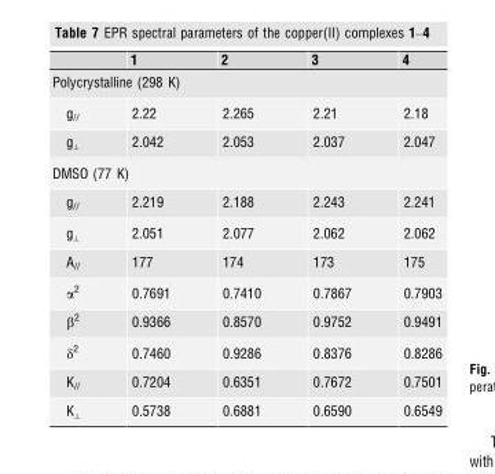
<table><thead><tr><td></td><td>1</td><td>2</td><td>3</td><td>4</td></tr></thead><tbody><tr><td colspan="5">Polycrystalline (298 K)</td></tr><tr><td>g<sub>//</sub></td><td>2.22</td><td>2.265</td><td>2.21</td><td>2.18</td></tr><tr><td>g<sub>⊥</sub></td><td>2.042</td><td>2.053</td><td>2.037</td><td>2.047</td></tr><tr><td colspan="5">DMSO (77 K)</td></tr><tr><td>g<sub>//</sub></td><td>2.219</td><td>2.188</td><td>2.243</td><td>2.241</td></tr><tr><td>g<sub>⊥</sub></td><td>2.051</td><td>2.077</td><td>2.062</td><td>2.062</td></tr><tr><td>A<sub>//</sub></td><td>177</td><td>174</td><td>173</td><td>175</td></tr><tr><td>α<sup>2</sup></td><td>0.7691</td><td>0.7410</td><td>0.7867</td><td>0.7903</td></tr><tr><td>β<sup>2</sup></td><td>0.9366</td><td>0.8570</td><td>0.9752</td><td>0.9491</td></tr><tr><td>δ<sup>2</sup></td><td>0.7460</td><td>0.9286</td><td>0.8376</td><td>0.8286</td></tr><tr><td>K<sub>//</sub></td><td>0.7204</td><td>0.6351</td><td>0.7672</td><td>0.7501</td></tr><tr><td>K<sub>⊥</sub></td><td>0.5738</td><td>0.6881</td><td>0.6590</td><td>0.6549</td></tr></tbody></table>